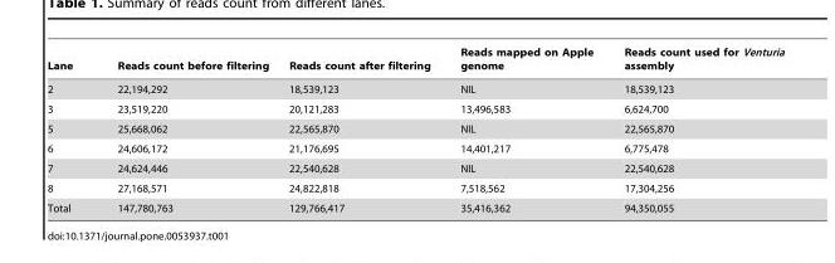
<table><thead><tr><td>Lane</td><td>Reads count before filtering</td><td>Reads count after filtering</td><td>Reads mapped on Apple genome</td><td>Reads count used for Venturia assembly</td></tr></thead><tbody><tr><td>2</td><td>22,194,292</td><td>18,539,123</td><td>NIL</td><td>18,539,123</td></tr><tr><td>3</td><td>23,519,220</td><td>20,121,283</td><td>13,496,583</td><td>6,624,700</td></tr><tr><td>5</td><td>25,668,062</td><td>22,565,870</td><td>NIL</td><td>22,565,870</td></tr><tr><td>6</td><td>24,606,172</td><td>21,176,695</td><td>14,401,217</td><td>6,775,478</td></tr><tr><td>7</td><td>24,624,446</td><td>22,540,628</td><td>NIL</td><td>22,540,628</td></tr><tr><td>8</td><td>27,168,571</td><td>24,822,818</td><td>7,518,562</td><td>17,304,256</td></tr><tr><td>Total</td><td>147,780,763</td><td>129,766,417</td><td>35,416,362</td><td>94,350,055</td></tr></tbody></table>